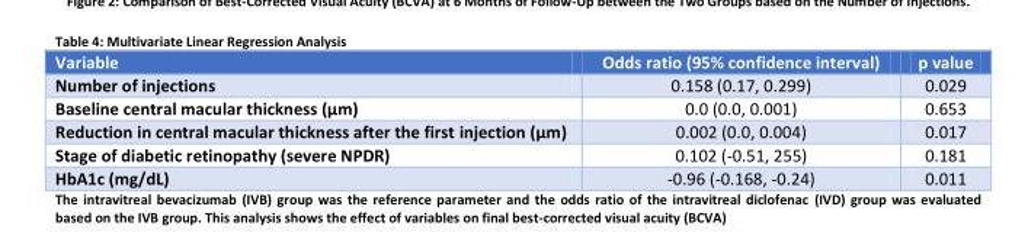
<table><thead><tr><td>Variable</td><td>Odds ratio (95% confidence interval)</td><td>p value</td></tr></thead><tbody><tr><td>Number of injections</td><td>0.158 (0.17, 0.299)</td><td>0.029</td></tr><tr><td>Baseline central macular thickness (µm)</td><td>0.0 (0.0, 0.001)</td><td>0.653</td></tr><tr><td>Reduction in central macular thickness after the first injection (µm)</td><td>0.002 (0.0, 0.004)</td><td>0.017</td></tr><tr><td>Stage of diabetic retinopathy (severe NPDR)</td><td>0.102 (-0.51, 255)</td><td>0.181</td></tr><tr><td>HbA1c (mg/dL)</td><td>-0.96 (-0.168, -0.24)</td><td>0.011</td></tr></tbody></table>